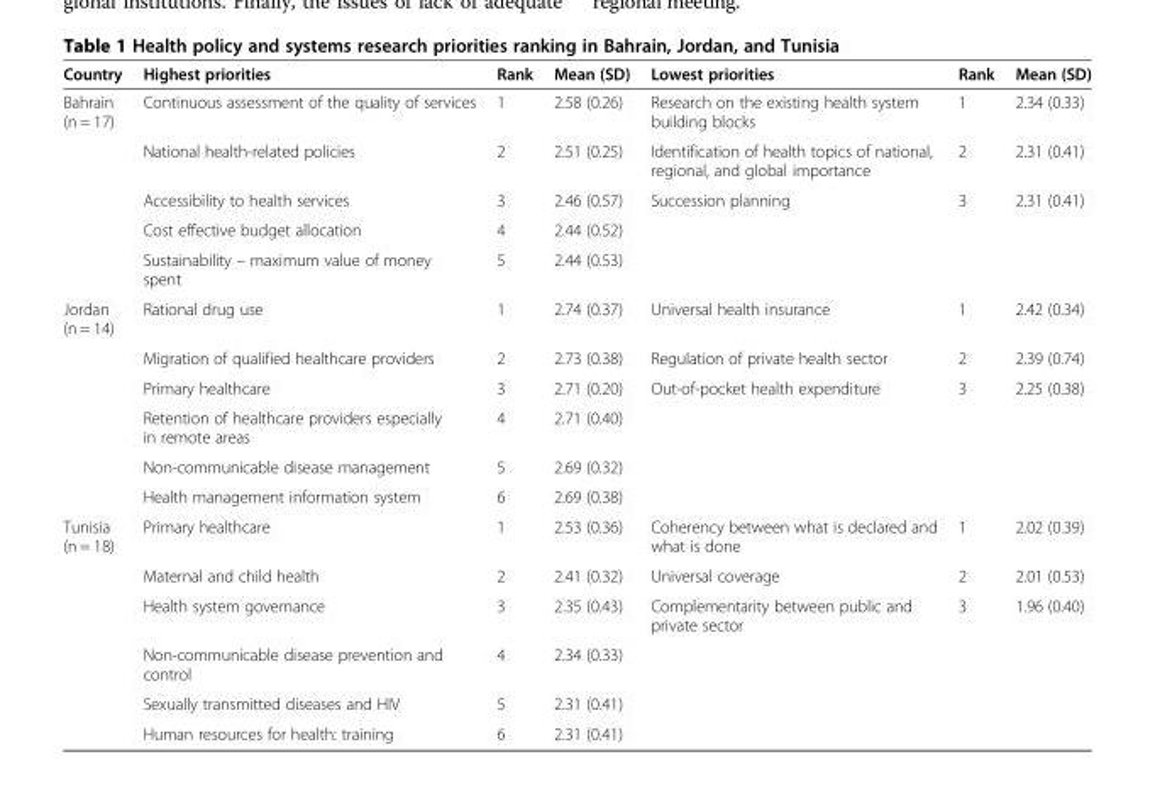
<table><thead><tr><td>Country</td><td>Highest priorities</td><td>Rank</td><td>Mean (SD)</td><td>Lowest priorities</td><td>Rank</td><td>Mean (SD)</td></tr></thead><tbody><tr><td rowspan="5">Bahrain (n = 17)</td><td>Continuous assessment of the quality of services</td><td>1</td><td>2.58 (0.26)</td><td>Research on the existing health system building blocks</td><td>1</td><td>2.34 (0.33)</td></tr><tr><td>National health-related policies</td><td>2</td><td>2.51 (0.25)</td><td>Identification of health topics of national, regional, and global importance</td><td>2</td><td>2.31 (0.41)</td></tr><tr><td>Accessibility to health services</td><td>3</td><td>2.46 (0.57)</td><td>Succession planning</td><td>3</td><td>2.31 (0.41)</td></tr><tr><td>Cost effective budget allocation</td><td>4</td><td>2.44 (0.52)</td><td></td><td></td><td></td></tr><tr><td>Sustainability – maximum value of money spent</td><td>5</td><td>2.44 (0.53)</td><td></td><td></td><td></td></tr><tr><td rowspan="6">Jordan (n = 14)</td><td>Rational drug use</td><td>1</td><td>2.74 (0.37)</td><td>Universal health insurance</td><td>1</td><td>2.42 (0.34)</td></tr><tr><td>Migration of qualified healthcare providers</td><td>2</td><td>2.73 (0.38)</td><td>Regulation of private health sector</td><td>2</td><td>2.39 (0.74)</td></tr><tr><td>Primary healthcare</td><td>3</td><td>2.71 (0.20)</td><td>Out-of-pocket health expenditure</td><td>3</td><td>2.25 (0.38)</td></tr><tr><td>Retention of healthcare providers especially in remote areas</td><td>4</td><td>2.71 (0.40)</td><td></td><td></td><td></td></tr><tr><td>Non-communicable disease management</td><td>5</td><td>2.69 (0.32)</td><td></td><td></td><td></td></tr><tr><td>Health management information system</td><td>6</td><td>2.69 (0.38)</td><td></td><td></td><td></td></tr><tr><td rowspan="6">Tunisia (n = 18)</td><td>Primary healthcare</td><td>1</td><td>2.53 (0.36)</td><td>Coherency between what is declared and what is done</td><td>1</td><td>2.02 (0.39)</td></tr><tr><td>Maternal and child health</td><td>2</td><td>2.41 (0.32)</td><td>Universal coverage</td><td>2</td><td>2.01 (0.53)</td></tr><tr><td>Health system governance</td><td>3</td><td>2.35 (0.43)</td><td>Complementarity between public and private sector</td><td>3</td><td>1.96 (0.40)</td></tr><tr><td>Non-communicable disease prevention and control</td><td>4</td><td>2.34 (0.33)</td><td></td><td></td><td></td></tr><tr><td>Sexually transmitted diseases and HIV</td><td>5</td><td>2.31 (0.41)</td><td></td><td></td><td></td></tr><tr><td>Human resources for health: training</td><td>6</td><td>2.31 (0.41)</td><td></td><td></td><td></td></tr></tbody></table>